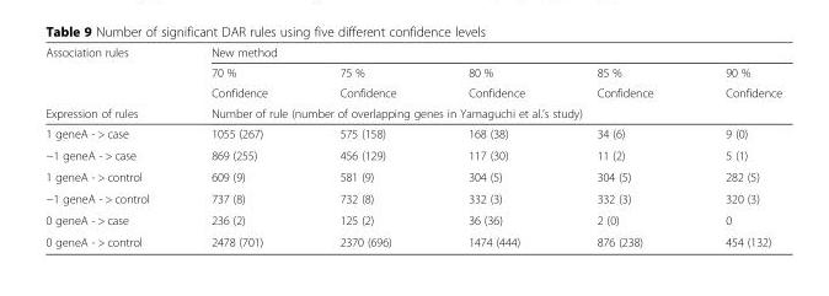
<table><thead><tr><td rowspan="4">Association rules Expression of rules</td><td colspan="5">New method</td></tr><tr><td rowspan="2">70 % Confidence</td><td rowspan="2">75 % Confidence</td><td rowspan="2">80 % Confidence</td><td rowspan="2">85 % Confidence</td><td rowspan="2">90 % Confidence</td></tr><tr></tr><tr><td colspan="5">Number of rule (number of overlapping genes in Yamaguchi et al.’s study)</td></tr></thead><tbody><tr><td>1 geneA - &gt; case</td><td>1055 (267)</td><td>575 (158)</td><td>168 (38)</td><td>34 (6)</td><td>9 (0)</td></tr><tr><td>−1 geneA - &gt; case</td><td>869 (255)</td><td>456 (129)</td><td>117 (30)</td><td>11 (2)</td><td>5 (1)</td></tr><tr><td>1 geneA - &gt; control</td><td>609 (9)</td><td>581 (9)</td><td>304 (5)</td><td>304 (5)</td><td>282 (5)</td></tr><tr><td>−1 geneA - &gt; control</td><td>737 (8)</td><td>732 (8)</td><td>332 (3)</td><td>332 (3)</td><td>320 (3)</td></tr><tr><td>0 geneA - &gt; case</td><td>236 (2)</td><td>125 (2)</td><td>36 (36)</td><td>2 (0)</td><td>0</td></tr><tr><td>0 geneA - &gt; control</td><td>2478 (701)</td><td>2370 (696)</td><td>1474 (444)</td><td>876 (238)</td><td>454 (132)</td></tr></tbody></table>